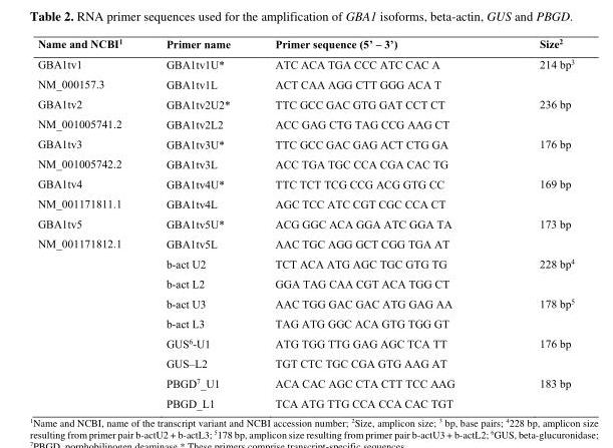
<table><thead><tr><td>Name and NCBI<sup>1</sup></td><td>Primer name</td><td>Primer sequence (5’ – 3’)</td><td>Size<sup>2</sup></td></tr></thead><tbody><tr><td rowspan="2">GBA1tv1 NM_000157.3</td><td>GBA1tv1U*</td><td>ATC ACA TGA CCC ATC CAC A</td><td>214 bp<sup>3</sup></td></tr><tr><td>GBA1tv1L</td><td>ACT CAA AGG CTT GGG ACA T</td><td></td></tr><tr><td rowspan="2">GBA1tv2 NM_001005741.2</td><td>GBA1tv2U2*</td><td>TTC GCC GAC GTG GAT CCT CT</td><td>236 bp</td></tr><tr><td>GBA1tv2L2</td><td>ACC GAG CTG TAG CCG AAG CT</td><td></td></tr><tr><td rowspan="2">GBA1tv3 NM_001005742.2</td><td>GBA1tv3U*</td><td>TTC GCC GAC GAG ACT CTG GA</td><td>176 bp</td></tr><tr><td>GBA1tv3L</td><td>ACC TGA TGC CCA CGA CAC TG</td><td></td></tr><tr><td rowspan="2">GBA1tv4 NM_001171811.1</td><td>GBA1tv4U*</td><td>TTC TCT TCG CCG ACG GTG CC</td><td>169 bp</td></tr><tr><td>GBA1tv4L</td><td>AGC TCC ATC CGT CGC CCA CT</td><td></td></tr><tr><td rowspan="10">GBA1tv5 NM_001171812.1</td><td>GBA1tv5U*</td><td>ACG GGC ACA GGA ATC GGA TA</td><td>173 bp</td></tr><tr><td>GBA1tv5L</td><td>AAC TGC AGG GCT CGG TGA AT</td><td></td></tr><tr><td>b-act U2</td><td>TCT ACA ATG AGC TGC GTG TG</td><td>228 bp<sup>4</sup></td></tr><tr><td>b-act L2</td><td>GGA TAG CAA CGT ACA TGG CT</td><td></td></tr><tr><td>b-act U3</td><td>AAC TGG GAC GAC ATG GAG AA</td><td>178 bp<sup>5</sup></td></tr><tr><td>b-act L3</td><td>TAG ATG GGC ACA GTG TGG GT</td><td></td></tr><tr><td>GUS<sup>6</sup>-U1</td><td>ATG TGG TTG GAG AGC TCA TT</td><td>176 bp</td></tr><tr><td>GUS–L2</td><td>TGT CTC TGC CGA GTG AAG AT</td><td></td></tr><tr><td>PBGD<sup>7</sup>_U1</td><td>ACA CAC AGC CTA CTT TCC AAG</td><td>183 bp</td></tr><tr><td>PBGD_L1</td><td>TCA ATG TTG CCA CCA CAC TGT</td><td></td></tr></tbody></table>